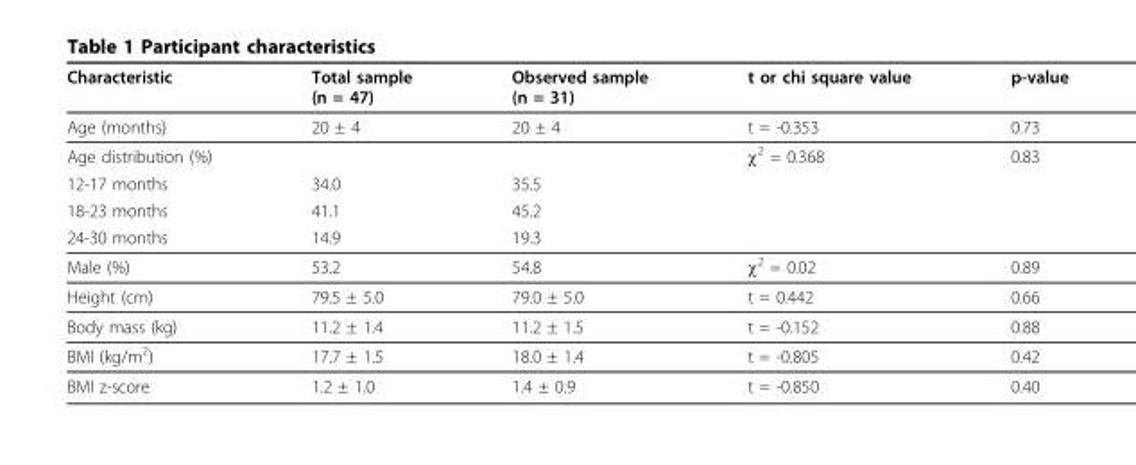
<table><thead><tr><td>Characteristic</td><td>Total sample (n = 47)</td><td>Observed sample (n = 31)</td><td>t or chi square value</td><td>p-value</td></tr></thead><tbody><tr><td>Age (months)</td><td>20 ± 4</td><td>20 ± 4</td><td>t = -0.353</td><td>0.73</td></tr><tr><td>Age distribution (%)</td><td></td><td></td><td>χ<sup>2</sup> = 0.368</td><td>0.83</td></tr><tr><td>12-17 months</td><td>34.0</td><td>35.5</td><td></td><td></td></tr><tr><td>18-23 months</td><td>41.1</td><td>45.2</td><td></td><td></td></tr><tr><td>24-30 months</td><td>14.9</td><td>19.3</td><td></td><td></td></tr><tr><td>Male (%)</td><td>53.2</td><td>54.8</td><td>χ<sup>2</sup> = 0.02</td><td>0.89</td></tr><tr><td>Height (cm)</td><td>79.5 ± 5.0</td><td>79.0 ± 5.0</td><td>t = 0.442</td><td>0.66</td></tr><tr><td>Body mass (kg)</td><td>11.2 ± 1.4</td><td>11.2 ± 1.5</td><td>t = -0.152</td><td>0.88</td></tr><tr><td>BMI (kg/m<sup>2</sup>)</td><td>17.7 ± 1.5</td><td>18.0 ± 1.4</td><td>t = -0.805</td><td>0.42</td></tr><tr><td>BMI z-score</td><td>1.2 ± 1.0</td><td>1.4 ± 0.9</td><td>t = -0.850</td><td>0.40</td></tr></tbody></table>